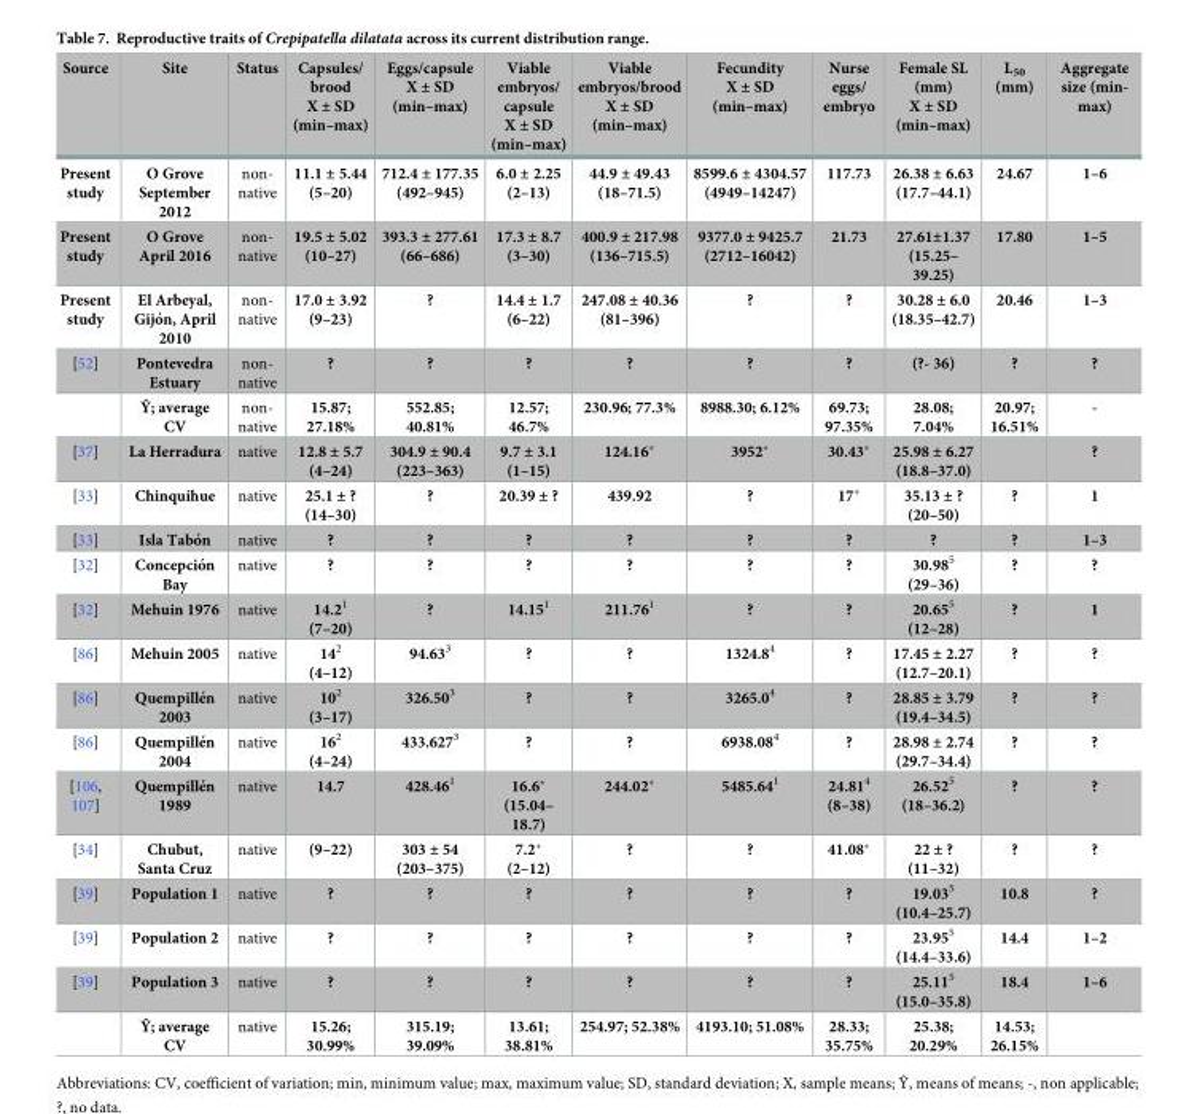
<table><thead><tr><td>Source</td><td>Site</td><td>Status</td><td>Capsules/ brood X ± SD (min–max)</td><td>Eggs/capsule X ± SD (min–max)</td><td>Viable embryos/ capsule X ± SD (min–max)</td><td>Viable embryos/brood X ± SD (min–max)</td><td>Fecundity X ± SD (min–max)</td><td>Nurse eggs/ embryo</td><td>Female SL (mm) X ± SD (min–max)</td><td>L<sub>50</sub> (mm)</td><td>Aggregate size (min- max)</td></tr></thead><tbody><tr><td>Present study</td><td>O Grove September 2012</td><td>non- native</td><td>11.1 ± 5.44 (5–20)</td><td>712.4 ± 177.35 (492–945)</td><td>6.0 ± 2.25 (2–13)</td><td>44.9 ± 49.43 (18–71.5)</td><td>8599.6 ± 4304.57 (4949–14247)</td><td>117.73</td><td>26.38 ± 6.63 (17.7–44.1)</td><td>24.67</td><td>1–6</td></tr><tr><td>Present study</td><td>O Grove April 2016</td><td>non- native</td><td>19.5 ± 5.02 (10–27)</td><td>393.3 ± 277.61 (66–686)</td><td>17.3 ± 8.7 (3–30)</td><td>400.9 ± 217.98 (136–715.5)</td><td>9377.0 ± 9425.7 (2712–16042)</td><td>21.73</td><td>27.61±1.37 (15.25– 39.25)</td><td>17.80</td><td>1–5</td></tr><tr><td>Present study</td><td>El Arbeyal, Gijo´n, April 2010</td><td>non- native</td><td>17.0 ± 3.92 (9–23)</td><td>?</td><td>14.4 ± 1.7 (6–22)</td><td>247.08 ± 40.36 (81–396)</td><td>?</td><td>?</td><td>30.28 ± 6.0 (18.35–42.7)</td><td>20.46</td><td>1–3</td></tr><tr><td rowspan="2">[52]</td><td>Pontevedra Estuary</td><td>non- native</td><td>?</td><td>?</td><td>?</td><td>?</td><td>?</td><td>?</td><td>(?- 36)</td><td>?</td><td>?</td></tr><tr><td>Ŷ; average CV</td><td>non- native</td><td>15.87; 27.18%</td><td>552.85; 40.81%</td><td>12.57; 46.7%</td><td>230.96; 77.3%</td><td>8988.30; 6.12%</td><td>69.73; 97.35%</td><td>28.08; 7.04%</td><td>20.97; 16.51%</td><td>-</td></tr><tr><td>[37]</td><td>La Herradura</td><td>native</td><td>12.8 ± 5.7 (4–24)</td><td>304.9 ± 90.4 (223–363)</td><td>9.7 ± 3.1 (1–15)</td><td>124.16*</td><td>3952*</td><td>30.43*</td><td>25.98 ± 6.27 (18.8–37.0)</td><td></td><td>?</td></tr><tr><td>[33]</td><td>Chinquihue</td><td>native</td><td>25.1 ± ? (14–30)</td><td>?</td><td>20.39 ± ?</td><td>439.92</td><td>?</td><td>17*</td><td>35.13 ± ? (20–50)</td><td>?</td><td>1</td></tr><tr><td>[33]</td><td>Isla Tabo´n</td><td>native</td><td>?</td><td>?</td><td>?</td><td>?</td><td>?</td><td>?</td><td>?</td><td>?</td><td>1–3</td></tr><tr><td>[32]</td><td>Concepcio´n Bay</td><td>native</td><td>?</td><td>?</td><td>?</td><td>?</td><td>?</td><td>?</td><td>30.98<sup>5</sup> (29–36)</td><td>?</td><td>?</td></tr><tr><td>[32]</td><td>Mehuin 1976</td><td>native</td><td>14.2<sup>1</sup> (7–20)</td><td>?</td><td>14.15<sup>1</sup></td><td>211.76<sup>1</sup></td><td>?</td><td>?</td><td>20.65<sup>5</sup> (12–28)</td><td>?</td><td>1</td></tr><tr><td>[86]</td><td>Mehuin 2005</td><td>native</td><td>14<sup>2</sup> (4–12)</td><td>94.63<sup>3</sup></td><td>?</td><td>?</td><td>1324.8<sup>4</sup></td><td>?</td><td>17.45 ± 2.27 (12.7–20.1)</td><td>?</td><td>?</td></tr><tr><td>[86]</td><td>Quempille´n 2003</td><td>native</td><td>10<sup>2</sup> (3–17)</td><td>326.50<sup>3</sup></td><td>?</td><td>?</td><td>3265.0<sup>4</sup></td><td>?</td><td>28.85 ± 3.79 (19.4–34.5)</td><td>?</td><td>?</td></tr><tr><td>[86]</td><td>Quempille´n 2004</td><td>native</td><td>16<sup>2</sup> (4–24)</td><td>433.627<sup>3</sup></td><td>?</td><td>?</td><td>6938.08<sup>4</sup></td><td>?</td><td>28.98 ± 2.74 (29.7–34.4)</td><td>?</td><td>?</td></tr><tr><td>[106, 107]</td><td>Quempille´n 1989</td><td>native</td><td>14.7</td><td>428.46<sup>1</sup></td><td>16.6* (15.04– 18.7)</td><td>244.02*</td><td>5485.64<sup>1</sup></td><td>24.81<sup>4</sup> (8–38)</td><td>26.52<sup>5</sup> (18–36.2)</td><td>?</td><td>?</td></tr><tr><td>[34]</td><td>Chubut, Santa Cruz</td><td>native</td><td>(9–22)</td><td>303 ± 54 (203–375)</td><td>7.2* (2–12)</td><td>?</td><td>?</td><td>41.08*</td><td>22 ± ? (11–32)</td><td>?</td><td>?</td></tr><tr><td>[39]</td><td>Population 1</td><td>native</td><td>?</td><td>?</td><td>?</td><td>?</td><td>?</td><td>?</td><td>19.03<sup>5</sup> (10.4–25.7)</td><td>10.8</td><td>?</td></tr><tr><td>[39]</td><td>Population 2</td><td>native</td><td>?</td><td>?</td><td>?</td><td>?</td><td>?</td><td>?</td><td>23.95<sup>5</sup> (14.4–33.6)</td><td>14.4</td><td>1–2</td></tr><tr><td rowspan="2">[39]</td><td>Population 3</td><td>native</td><td>?</td><td>?</td><td>?</td><td>?</td><td>?</td><td>?</td><td>25.11<sup>5</sup> (15.0–35.8)</td><td>18.4</td><td>1–6</td></tr><tr><td>Ŷ; average CV</td><td>native</td><td>15.26; 30.99%</td><td>315.19; 39.09%</td><td>13.61; 38.81%</td><td>254.97; 52.38%</td><td>4193.10; 51.08%</td><td>28.33; 35.75%</td><td>25.38; 20.29%</td><td>14.53; 26.15%</td><td></td></tr></tbody></table>